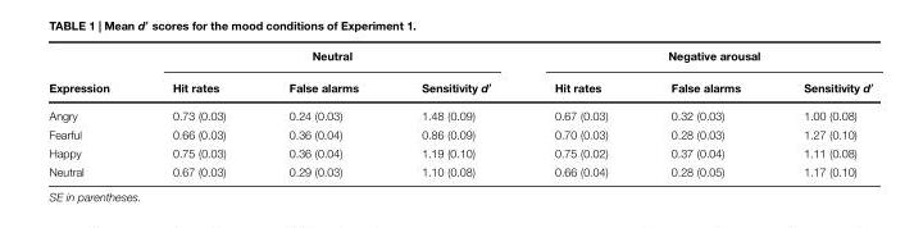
<table><thead><tr><td rowspan="2">Expression</td><td colspan="3">Neutral</td><td colspan="3">Negative arousal</td></tr><tr><td>Hit rates</td><td>False alarms</td><td>Sensitivity d′</td><td>Hit rates</td><td>False alarms</td><td>Sensitivity d′</td></tr></thead><tbody><tr><td>Angry</td><td>0.73 (0.03)</td><td>0.24 (0.03)</td><td>1.48 (0.09)</td><td>0.67 (0.03)</td><td>0.32 (0.03)</td><td>1.00 (0.08)</td></tr><tr><td>Fearful</td><td>0.66 (0.03)</td><td>0.36 (0.04)</td><td>0.86 (0.09)</td><td>0.70 (0.03)</td><td>0.28 (0.03)</td><td>1.27 (0.10)</td></tr><tr><td>Happy</td><td>0.75 (0.03)</td><td>0.36 (0.04)</td><td>1.19 (0.10)</td><td>0.75 (0.02)</td><td>0.37 (0.04)</td><td>1.11 (0.08)</td></tr><tr><td>Neutral</td><td>0.67 (0.03)</td><td>0.29 (0.03)</td><td>1.10 (0.08)</td><td>0.66 (0.04)</td><td>0.28 (0.05)</td><td>1.17 (0.10)</td></tr></tbody></table>